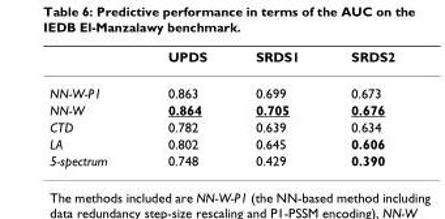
<table><thead><tr><td></td><td>UPDS</td><td>SRDS1</td><td>SRDS2</td></tr></thead><tbody><tr><td>NN-W-P1</td><td>0.863</td><td>0.699</td><td>0.673</td></tr><tr><td>NN-W</td><td>0.864</td><td>0.705</td><td>0.676</td></tr><tr><td>CTD</td><td>0.782</td><td>0.639</td><td>0.634</td></tr><tr><td>LA</td><td>0.802</td><td>0.645</td><td>0.606</td></tr><tr><td>5-spectrum</td><td>0.748</td><td>0.429</td><td>0.390</td></tr></tbody></table>